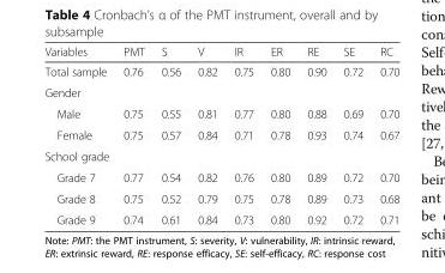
<table><thead><tr><td>Variables</td><td>PMT</td><td>S</td><td>V</td><td>IR</td><td>ER</td><td>RE</td><td>SE</td><td>RC</td></tr></thead><tbody><tr><td>Total sample</td><td>0.76</td><td>0.56</td><td>0.82</td><td>0.75</td><td>0.80</td><td>0.90</td><td>0.72</td><td>0.70</td></tr><tr><td colspan="9">Gender</td></tr><tr><td>Male</td><td>0.75</td><td>0.55</td><td>0.81</td><td>0.77</td><td>0.80</td><td>0.88</td><td>0.69</td><td>0.70</td></tr><tr><td>Female</td><td>0.75</td><td>0.57</td><td>0.84</td><td>0.71</td><td>0.78</td><td>0.93</td><td>0.74</td><td>0.67</td></tr><tr><td colspan="9">School grade</td></tr><tr><td>Grade 7</td><td>0.77</td><td>0.54</td><td>0.82</td><td>0.76</td><td>0.80</td><td>0.89</td><td>0.72</td><td>0.70</td></tr><tr><td>Grade 8</td><td>0.75</td><td>0.52</td><td>0.79</td><td>0.75</td><td>0.78</td><td>0.89</td><td>0.73</td><td>0.68</td></tr><tr><td>Grade 9</td><td>0.74</td><td>0.61</td><td>0.84</td><td>0.73</td><td>0.80</td><td>0.92</td><td>0.72</td><td>0.71</td></tr></tbody></table>